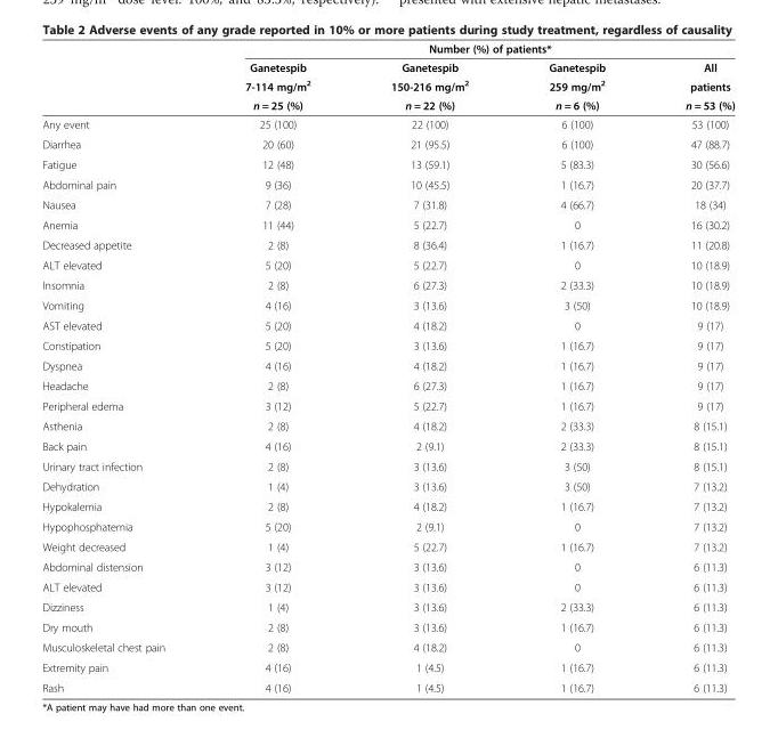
<table><thead><tr><td rowspan="4"></td><td colspan="4">Number (%) of patients*</td></tr><tr><td rowspan="3">Ganetespib 7-114 mg/m<sup>2</sup> n = 25 (%)</td><td rowspan="3">Ganetespib 150-216 mg/m<sup>2</sup> n = 22 (%)</td><td rowspan="3">Ganetespib 259 mg/m<sup>2</sup> n = 6 (%)</td><td rowspan="3">All patients n = 53 (%)</td></tr><tr></tr><tr></tr></thead><tbody><tr><td>Any event</td><td>25 (100)</td><td>22 (100)</td><td>6 (100)</td><td>53 (100)</td></tr><tr><td>Diarrhea</td><td>20 (60)</td><td>21 (95.5)</td><td>6 (100)</td><td>47 (88.7)</td></tr><tr><td>Fatigue</td><td>12 (48)</td><td>13 (59.1)</td><td>5 (83.3)</td><td>30 (56.6)</td></tr><tr><td>Abdominal pain</td><td>9 (36)</td><td>10 (45.5)</td><td>1 (16.7)</td><td>20 (37.7)</td></tr><tr><td>Nausea</td><td>7 (28)</td><td>7 (31.8)</td><td>4 (66.7)</td><td>18 (34)</td></tr><tr><td>Anemia</td><td>11 (44)</td><td>5 (22.7)</td><td>0</td><td>16 (30.2)</td></tr><tr><td>Decreased appetite</td><td>2 (8)</td><td>8 (36.4)</td><td>1 (16.7)</td><td>11 (20.8)</td></tr><tr><td>ALT elevated</td><td>5 (20)</td><td>5 (22.7)</td><td>0</td><td>10 (18.9)</td></tr><tr><td>Insomnia</td><td>2 (8)</td><td>6 (27.3)</td><td>2 (33.3)</td><td>10 (18.9)</td></tr><tr><td>Vomiting</td><td>4 (16)</td><td>3 (13.6)</td><td>3 (50)</td><td>10 (18.9)</td></tr><tr><td>AST elevated</td><td>5 (20)</td><td>4 (18.2)</td><td>0</td><td>9 (17)</td></tr><tr><td>Constipation</td><td>5 (20)</td><td>3 (13.6)</td><td>1 (16.7)</td><td>9 (17)</td></tr><tr><td>Dyspnea</td><td>4 (16)</td><td>4 (18.2)</td><td>1 (16.7)</td><td>9 (17)</td></tr><tr><td>Headache</td><td>2 (8)</td><td>6 (27.3)</td><td>1 (16.7)</td><td>9 (17)</td></tr><tr><td>Peripheral edema</td><td>3 (12)</td><td>5 (22.7)</td><td>1 (16.7)</td><td>9 (17)</td></tr><tr><td>Asthenia</td><td>2 (8)</td><td>4 (18.2)</td><td>2 (33.3)</td><td>8 (15.1)</td></tr><tr><td>Back pain</td><td>4 (16)</td><td>2 (9.1)</td><td>2 (33.3)</td><td>8 (15.1)</td></tr><tr><td>Urinary tract infection</td><td>2 (8)</td><td>3 (13.6)</td><td>3 (50)</td><td>8 (15.1)</td></tr><tr><td>Dehydration</td><td>1 (4)</td><td>3 (13.6)</td><td>3 (50)</td><td>7 (13.2)</td></tr><tr><td>Hypokalemia</td><td>2 (8)</td><td>4 (18.2)</td><td>1 (16.7)</td><td>7 (13.2)</td></tr><tr><td>Hypophosphatemia</td><td>5 (20)</td><td>2 (9.1)</td><td>0</td><td>7 (13.2)</td></tr><tr><td>Weight decreased</td><td>1 (4)</td><td>5 (22.7)</td><td>1 (16.7)</td><td>7 (13.2)</td></tr><tr><td>Abdominal distension</td><td>3 (12)</td><td>3 (13.6)</td><td>0</td><td>6 (11.3)</td></tr><tr><td>ALT elevated</td><td>3 (12)</td><td>3 (13.6)</td><td>0</td><td>6 (11.3)</td></tr><tr><td>Dizziness</td><td>1 (4)</td><td>3 (13.6)</td><td>2 (33.3)</td><td>6 (11.3)</td></tr><tr><td>Dry mouth</td><td>2 (8)</td><td>3 (13.6)</td><td>1 (16.7)</td><td>6 (11.3)</td></tr><tr><td>Musculoskeletal chest pain</td><td>2 (8)</td><td>4 (18.2)</td><td>0</td><td>6 (11.3)</td></tr><tr><td>Extremity pain</td><td>4 (16)</td><td>1 (4.5)</td><td>1 (16.7)</td><td>6 (11.3)</td></tr><tr><td>Rash</td><td>4 (16)</td><td>1 (4.5)</td><td>1 (16.7)</td><td>6 (11.3)</td></tr></tbody></table>